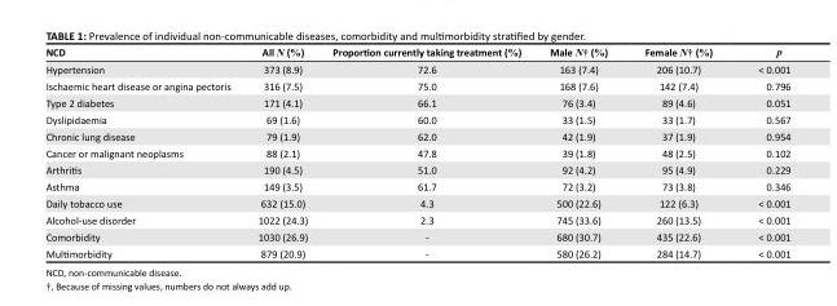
<table><thead><tr><td>NCD</td><td>All N (%)</td><td>Proportion currently taking treatment (%)</td><td>Male N† (%)</td><td>Female N† (%)</td><td>p</td></tr></thead><tbody><tr><td>Hypertension</td><td>373 (8.9)</td><td>72.6</td><td>163 (7.4)</td><td>206 (10.7)</td><td>&lt; 0.001</td></tr><tr><td>Ischaemic heart disease or angina pectoris</td><td>316 (7.5)</td><td>75.0</td><td>168 (7.6)</td><td>142 (7.4)</td><td>0.796</td></tr><tr><td>Type 2 diabetes</td><td>171 (4.1)</td><td>66.1</td><td>76 (3.4)</td><td>89 (4.6)</td><td>0.051</td></tr><tr><td>Dyslipidaemia</td><td>69 (1.6)</td><td>60.0</td><td>33 (1.5)</td><td>33 (1.7)</td><td>0.567</td></tr><tr><td>Chronic lung disease</td><td>79 (1.9)</td><td>62.0</td><td>42 (1.9)</td><td>37 (1.9)</td><td>0.954</td></tr><tr><td>Cancer or malignant neoplasms</td><td>88 (2.1)</td><td>47.8</td><td>39 (1.8)</td><td>48 (2.5)</td><td>0.102</td></tr><tr><td>Arthritis</td><td>190 (4.5)</td><td>51.0</td><td>92 (4.2)</td><td>95 (4.9)</td><td>0.229</td></tr><tr><td>Asthma</td><td>149 (3.5)</td><td>61.7</td><td>72 (3.2)</td><td>73 (3.8)</td><td>0.346</td></tr><tr><td>Daily tobacco use</td><td>632 (15.0)</td><td>4.3</td><td>500 (22.6)</td><td>122 (6.3)</td><td>&lt; 0.001</td></tr><tr><td>Alcohol-use disorder</td><td>1022 (24.3)</td><td>2.3</td><td>745 (33.6)</td><td>260 (13.5)</td><td>&lt; 0.001</td></tr><tr><td>Comorbidity</td><td>1030 (26.9)</td><td>-</td><td>680 (30.7)</td><td>435 (22.6)</td><td>&lt; 0.001</td></tr><tr><td>Multimorbidity</td><td>879 (20.9)</td><td>-</td><td>580 (26.2)</td><td>284 (14.7)</td><td>&lt; 0.001</td></tr></tbody></table>